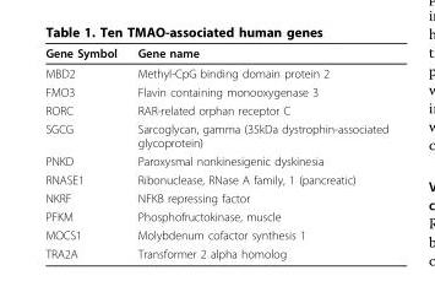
<table><thead><tr><td>Gene Symbol</td><td>Gene name</td></tr></thead><tbody><tr><td>MBD2</td><td>Methyl-CpG binding domain protein 2</td></tr><tr><td>FMO3</td><td>Flavin containing monooxygenase 3</td></tr><tr><td>RORC</td><td>RAR-related orphan receptor C</td></tr><tr><td>SGCG</td><td>Sarcoglycan, gamma (35kDa dystrophin-associated glycoprotein)</td></tr><tr><td>PNKD</td><td>Paroxysmal nonkinesigenic dyskinesia</td></tr><tr><td>RNASE1</td><td>Ribonuclease, RNase A family, 1 (pancreatic)</td></tr><tr><td>NKRF</td><td>NFKB repressing factor</td></tr><tr><td>PFKM</td><td>Phosphofructokinase, muscle</td></tr><tr><td>MOCS1</td><td>Molybdenum cofactor synthesis 1</td></tr><tr><td>TRA2A</td><td>Transformer 2 alpha homolog</td></tr></tbody></table>